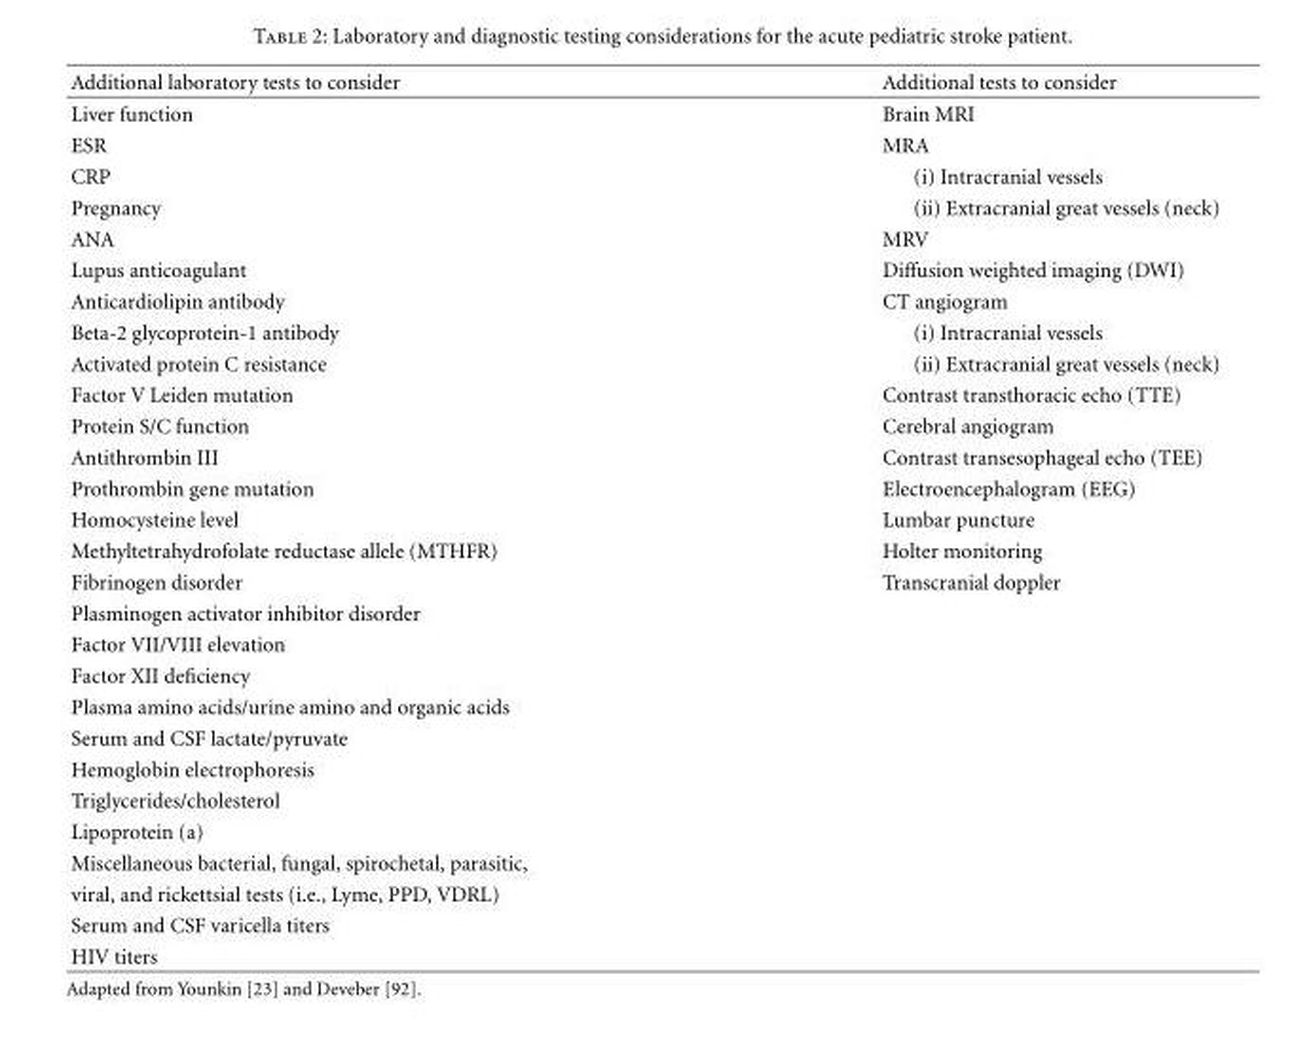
<table><thead><tr><td>Additional laboratory tests to consider</td><td>Additional tests to consider</td></tr></thead><tbody><tr><td>Liver function</td><td>Brain MRI</td></tr><tr><td>ESR</td><td>MRA</td></tr><tr><td>CRP</td><td>(i) Intracranial vessels</td></tr><tr><td>Pregnancy</td><td>(ii) Extracranial great vessels (neck)</td></tr><tr><td>ANA</td><td>MRV</td></tr><tr><td>Lupus anticoagulant</td><td>Diffusion weighted imaging (DWI)</td></tr><tr><td>Anticardiolipin antibody</td><td>CT angiogram</td></tr><tr><td>Beta-2 glycoprotein-1 antibody</td><td>(i) Intracranial vessels</td></tr><tr><td>Activated protein C resistance</td><td>(ii) Extracranial great vessels (neck)</td></tr><tr><td>Factor V Leiden mutation</td><td>Contrast transthoracic echo (TTE)</td></tr><tr><td>Protein S/C function</td><td>Cerebral angiogram</td></tr><tr><td>Antithrombin III</td><td>Contrast transesophageal echo (TEE)</td></tr><tr><td>Prothrombin gene mutation</td><td>Electroencephalogram (EEG)</td></tr><tr><td>Homocysteine level</td><td>Lumbar puncture</td></tr><tr><td>Methyltetrahydrofolate reductase allele (MTHFR)</td><td>Holter monitoring</td></tr><tr><td>Fibrinogen disorder</td><td>Transcranial doppler</td></tr><tr><td colspan="2">Plasminogen activator inhibitor disorder</td></tr><tr><td colspan="2">Factor VII/VIII elevation</td></tr><tr><td colspan="2">Factor XII deficiency</td></tr><tr><td colspan="2">Plasma amino acids/urine amino and organic acids</td></tr><tr><td colspan="2">Serum and CSF lactate/pyruvate</td></tr><tr><td colspan="2">Hemoglobin electrophoresis</td></tr><tr><td colspan="2">Triglycerides/cholesterol</td></tr><tr><td colspan="2">Lipoprotein (a)</td></tr><tr><td colspan="2">Miscellaneous bacterial, fungal, spirochetal, parasitic,</td></tr><tr><td colspan="2">viral, and rickettsial tests (i.e., Lyme, PPD, VDRL)</td></tr><tr><td colspan="2">Serum and CSF varicella titers</td></tr><tr><td>HIV titers</td><td></td></tr></tbody></table>